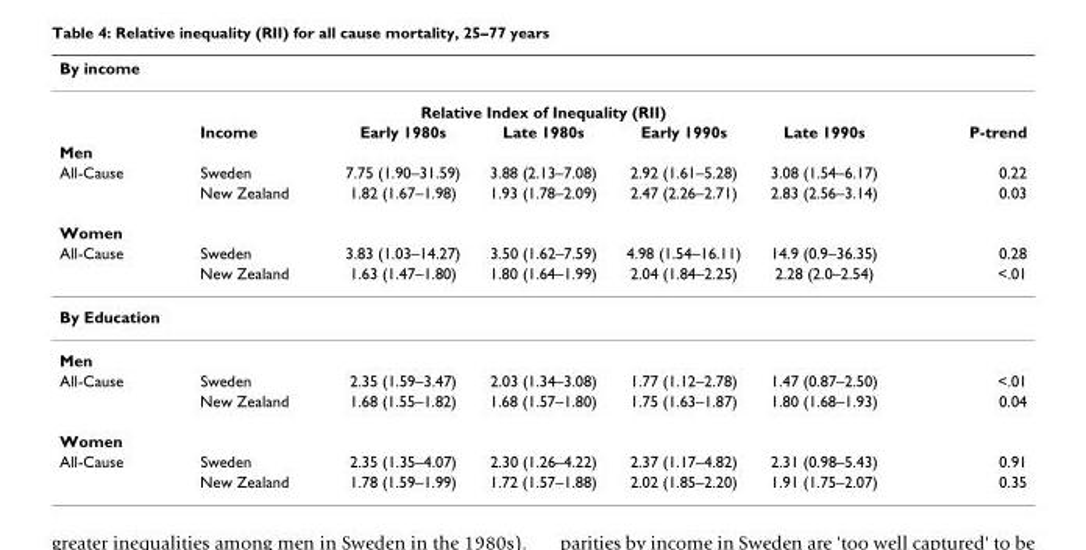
<table><thead><tr><td>By income</td><td></td><td></td><td></td><td></td><td></td><td></td></tr></thead><tbody><tr><td colspan="7">Relative Index of Inequality (RII)</td></tr><tr><td></td><td>Income</td><td>Early 1980s</td><td>Late 1980s</td><td>Early 1990s</td><td>Late 1990s</td><td>P-trend</td></tr><tr><td colspan="7">Men</td></tr><tr><td rowspan="2">All-Cause</td><td>Sweden</td><td>7.75 (1.90–31.59)</td><td>3.88 (2.13–7.08)</td><td>2.92 (1.61–5.28)</td><td>3.08 (1.54–6.17)</td><td>0.22</td></tr><tr><td>New Zealand</td><td>1.82 (1.67–1.98)</td><td>1.93 (1.78–2.09)</td><td>2.47 (2.26–2.71)</td><td>2.83 (2.56–3.14)</td><td>0.03</td></tr><tr><td colspan="7">Women</td></tr><tr><td rowspan="2">All-Cause</td><td>Sweden</td><td>3.83 (1.03–14.27)</td><td>3.50 (1.62–7.59)</td><td>4.98 (1.54–16.11)</td><td>14.9 (0.9–36.35)</td><td>0.28</td></tr><tr><td>New Zealand</td><td>1.63 (1.47–1.80)</td><td>1.80 (1.64–1.99)</td><td>2.04 (1.84–2.25)</td><td>2.28 (2.0–2.54)</td><td>&lt;.01</td></tr><tr><td colspan="7">By Education</td></tr><tr><td colspan="7">Men</td></tr><tr><td rowspan="2">All-Cause</td><td>Sweden</td><td>2.35 (1.59–3.47)</td><td>2.03 (1.34–3.08)</td><td>1.77 (1.12–2.78)</td><td>1.47 (0.87–2.50)</td><td>&lt;.01</td></tr><tr><td>New Zealand</td><td>1.68 (1.55–1.82)</td><td>1.68 (1.57–1.80)</td><td>1.75 (1.63–1.87)</td><td>1.80 (1.68–1.93)</td><td>0.04</td></tr><tr><td colspan="7">Women</td></tr><tr><td rowspan="2">All-Cause</td><td>Sweden</td><td>2.35 (1.35–4.07)</td><td>2.30 (1.26–4.22)</td><td>2.37 (1.17–4.82)</td><td>2.31 (0.98–5.43)</td><td>0.91</td></tr><tr><td>New Zealand</td><td>1.78 (1.59–1.99)</td><td>1.72 (1.57–1.88)</td><td>2.02 (1.85–2.20)</td><td>1.91 (1.75–2.07)</td><td>0.35</td></tr></tbody></table>